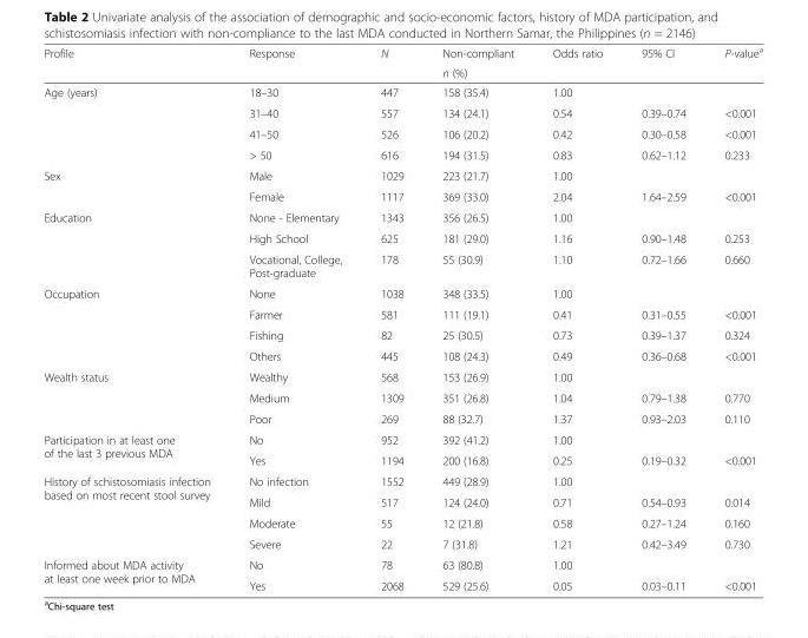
<table><thead><tr><td rowspan="2">Profile</td><td rowspan="2">Response</td><td rowspan="2">N</td><td rowspan="2">Non-compliant n (%)</td><td rowspan="2">Odds ratio</td><td rowspan="2">95% CI</td><td rowspan="2">P-value<sup>a</sup></td></tr><tr></tr></thead><tbody><tr><td rowspan="4">Age (years)</td><td>18–30</td><td>447</td><td>158 (35.4)</td><td>1.00</td><td></td><td></td></tr><tr><td>31–40</td><td>557</td><td>134 (24.1)</td><td>0.54</td><td>0.39–0.74</td><td>&lt;0.001</td></tr><tr><td>41–50</td><td>526</td><td>106 (20.2)</td><td>0.42</td><td>0.30–0.58</td><td>&lt;0.001</td></tr><tr><td>&gt; 50</td><td>616</td><td>194 (31.5)</td><td>0.83</td><td>0.62–1.12</td><td>0.233</td></tr><tr><td rowspan="2">Sex</td><td>Male</td><td>1029</td><td>223 (21.7)</td><td>1.00</td><td></td><td></td></tr><tr><td>Female</td><td>1117</td><td>369 (33.0)</td><td>2.04</td><td>1.64–2.59</td><td>&lt;0.001</td></tr><tr><td rowspan="3">Education</td><td>None - Elementary</td><td>1343</td><td>356 (26.5)</td><td>1.00</td><td></td><td></td></tr><tr><td>High School</td><td>625</td><td>181 (29.0)</td><td>1.16</td><td>0.90–1.48</td><td>0.253</td></tr><tr><td>Vocational, College, Post-graduate</td><td>178</td><td>55 (30.9)</td><td>1.10</td><td>0.72–1.66</td><td>0.660</td></tr><tr><td rowspan="4">Occupation</td><td>None</td><td>1038</td><td>348 (33.5)</td><td>1.00</td><td></td><td></td></tr><tr><td>Farmer</td><td>581</td><td>111 (19.1)</td><td>0.41</td><td>0.31–0.55</td><td>&lt;0.001</td></tr><tr><td>Fishing</td><td>82</td><td>25 (30.5)</td><td>0.73</td><td>0.39–1.37</td><td>0.324</td></tr><tr><td>Others</td><td>445</td><td>108 (24.3)</td><td>0.49</td><td>0.36–0.68</td><td>&lt;0.001</td></tr><tr><td rowspan="3">Wealth status</td><td>Wealthy</td><td>568</td><td>153 (26.9)</td><td>1.00</td><td></td><td></td></tr><tr><td>Medium</td><td>1309</td><td>351 (26.8)</td><td>1.04</td><td>0.79–1.38</td><td>0.770</td></tr><tr><td>Poor</td><td>269</td><td>88 (32.7)</td><td>1.37</td><td>0.93–2.03</td><td>0.110</td></tr><tr><td rowspan="2">Participation in at least one of the last 3 previous MDA</td><td>No</td><td>952</td><td>392 (41.2)</td><td>1.00</td><td></td><td></td></tr><tr><td>Yes</td><td>1194</td><td>200 (16.8)</td><td>0.25</td><td>0.19–0.32</td><td>&lt;0.001</td></tr><tr><td rowspan="4">History of schistosomiasis infection based on most recent stool survey</td><td>No infection</td><td>1552</td><td>449 (28.9)</td><td>1.00</td><td></td><td></td></tr><tr><td>Mild</td><td>517</td><td>124 (24.0)</td><td>0.71</td><td>0.54–0.93</td><td>0.014</td></tr><tr><td>Moderate</td><td>55</td><td>12 (21.8)</td><td>0.58</td><td>0.27–1.24</td><td>0.160</td></tr><tr><td>Severe</td><td>22</td><td>7 (31.8)</td><td>1.21</td><td>0.42–3.49</td><td>0.730</td></tr><tr><td rowspan="2">Informed about MDA activity at least one week prior to MDA</td><td>No</td><td>78</td><td>63 (80.8)</td><td>1.00</td><td></td><td></td></tr><tr><td>Yes</td><td>2068</td><td>529 (25.6)</td><td>0.05</td><td>0.03–0.11</td><td>&lt;0.001</td></tr></tbody></table>